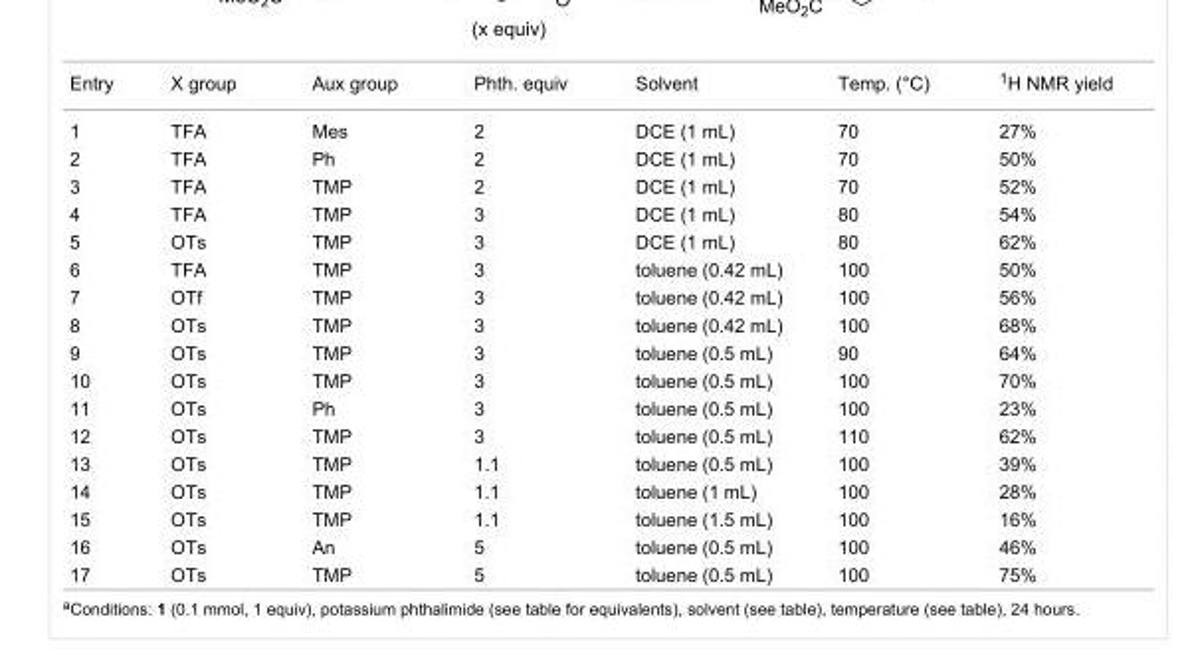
<table><tbody><tr><td>Entry</td><td>X group</td><td>Aux group</td><td>Phth. equiv</td><td>Solvent</td><td>Temp. (°C)</td><td><sup>1</sup>H NMR yield</td></tr><tr><td>1</td><td>TFA</td><td>Mes</td><td>2</td><td>DCE (1 mL)</td><td>70</td><td>27%</td></tr><tr><td>2</td><td>TFA</td><td>Ph</td><td>2</td><td>DCE (1 mL)</td><td>70</td><td>50%</td></tr><tr><td>3</td><td>TFA</td><td>TMP</td><td>2</td><td>DCE (1 mL)</td><td>70</td><td>52%</td></tr><tr><td>4</td><td>TFA</td><td>TMP</td><td>3</td><td>DCE (1 mL)</td><td>80</td><td>54%</td></tr><tr><td>5</td><td>OTs</td><td>TMP</td><td>3</td><td>DCE (1 mL)</td><td>80</td><td>62%</td></tr><tr><td>6</td><td>TFA</td><td>TMP</td><td>3</td><td>toluene (0.42 mL)</td><td>100</td><td>50%</td></tr><tr><td>7</td><td>OTf</td><td>TMP</td><td>3</td><td>toluene (0.42 mL)</td><td>100</td><td>56%</td></tr><tr><td>8</td><td>OTs</td><td>TMP</td><td>3</td><td>toluene (0.42 mL)</td><td>100</td><td>68%</td></tr><tr><td>9</td><td>OTs</td><td>TMP</td><td>3</td><td>toluene (0.5 mL)</td><td>90</td><td>64%</td></tr><tr><td>10</td><td>OTs</td><td>TMP</td><td>3</td><td>toluene (0.5 mL)</td><td>100</td><td>70%</td></tr><tr><td>11</td><td>OTs</td><td>Ph</td><td>3</td><td>toluene (0.5 mL)</td><td>100</td><td>23%</td></tr><tr><td>12</td><td>OTs</td><td>TMP</td><td>3</td><td>toluene (0.5 mL)</td><td>110</td><td>62%</td></tr><tr><td>13</td><td>OTs</td><td>TMP</td><td>1.1</td><td>toluene (0.5 mL)</td><td>100</td><td>39%</td></tr><tr><td>14</td><td>OTs</td><td>TMP</td><td>1.1</td><td>toluene (1 mL)</td><td>100</td><td>28%</td></tr><tr><td>15</td><td>OTs</td><td>TMP</td><td>1.1</td><td>toluene (1.5 mL)</td><td>100</td><td>16%</td></tr><tr><td>16</td><td>OTs</td><td>An</td><td>5</td><td>toluene (0.5 mL)</td><td>100</td><td>46%</td></tr><tr><td>17</td><td>OTs</td><td>TMP</td><td>5</td><td>toluene (0.5 mL)</td><td>100</td><td>75%</td></tr></tbody></table>